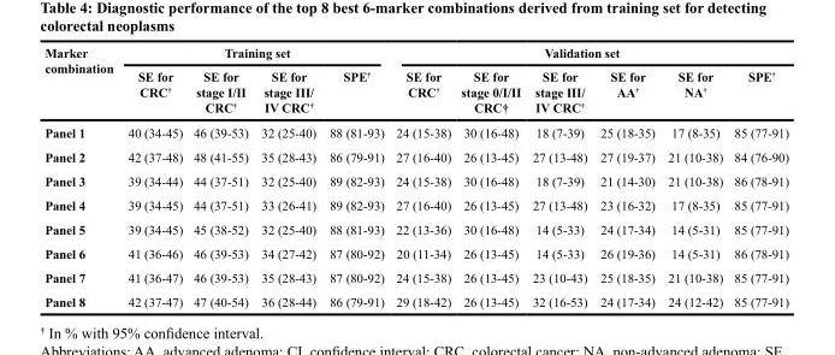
<table><thead><tr><td rowspan="2">Marker combination</td><td colspan="4">Training set</td><td colspan="6">Validation set</td></tr><tr><td>SE for CRC<sup>†</sup></td><td>SE for stage I/II CRC<sup>†</sup></td><td>SE for stage III/ IV CRC<sup>†</sup></td><td>SPE<sup>†</sup></td><td>SE for CRC<sup>†</sup></td><td>SE for stage 0/I/II CRC†</td><td>SE for stage III/ IV CRC<sup>†</sup></td><td>SE for AA<sup>†</sup></td><td>SE for NA<sup>†</sup></td><td>SPE<sup>†</sup></td></tr></thead><tbody><tr><td>Panel 1</td><td>40 (34-45)</td><td>46 (39-53)</td><td>32 (25-40)</td><td>88 (81-93)</td><td>24 (15-38)</td><td>30 (16-48)</td><td>18 (7-39)</td><td>25 (18-35)</td><td>17 (8-35)</td><td>85 (77-91)</td></tr><tr><td>Panel 2</td><td>42 (37-48)</td><td>48 (41-55)</td><td>35 (28-43)</td><td>86 (79-91)</td><td>27 (16-40)</td><td>26 (13-45)</td><td>27 (13-48)</td><td>27 (19-37)</td><td>21 (10-38)</td><td>84 (76-90)</td></tr><tr><td>Panel 3</td><td>39 (34-44)</td><td>44 (37-51)</td><td>32 (25-40)</td><td>89 (82-93)</td><td>24 (15-38)</td><td>30 (16-48)</td><td>18 (7-39)</td><td>21 (14-30)</td><td>21 (10-38)</td><td>86 (78-91)</td></tr><tr><td>Panel 4</td><td>39 (34-45)</td><td>44 (37-51)</td><td>33 (26-41)</td><td>89 (82-93)</td><td>27 (16-40)</td><td>26 (13-45)</td><td>27 (13-48)</td><td>23 (16-32)</td><td>17 (8-35)</td><td>85 (77-91)</td></tr><tr><td>Panel 5</td><td>39 (34-45)</td><td>45 (38-52)</td><td>32 (25-40)</td><td>88 (81-93)</td><td>22 (13-36)</td><td>30 (16-48)</td><td>14 (5-33)</td><td>24 (17-34)</td><td>14 (5-31)</td><td>85 (77-91)</td></tr><tr><td>Panel 6</td><td>41 (36-46)</td><td>46 (39-53)</td><td>34 (27-42)</td><td>87 (80-92)</td><td>20 (11-34)</td><td>26 (13-45)</td><td>14 (5-33)</td><td>26 (19-36)</td><td>14 (5-31)</td><td>86 (78-91)</td></tr><tr><td>Panel 7</td><td>41 (36-47)</td><td>46 (39-53)</td><td>35 (28-43)</td><td>87 (80-92)</td><td>24 (15-38)</td><td>26 (13-45)</td><td>23 (10-43)</td><td>25 (18-35)</td><td>21 (10-38)</td><td>85 (77-91)</td></tr><tr><td>Panel 8</td><td>42 (37-47)</td><td>47 (40-54)</td><td>36 (28-44)</td><td>86 (79-91)</td><td>29 (18-42)</td><td>26 (13-45)</td><td>32 (16-53)</td><td>24 (17-34)</td><td>24 (12-42)</td><td>85 (77-91)</td></tr></tbody></table>